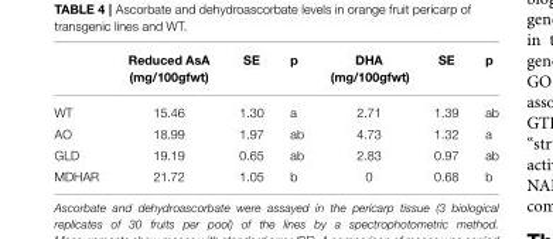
<table><thead><tr><td></td><td>Reduced AsA (mg/100gfwt)</td><td>SE</td><td>p</td><td>DHA (mg/100gfwt)</td><td>SE</td><td>p</td></tr></thead><tbody><tr><td>WT</td><td>15.46</td><td>1.30</td><td>a</td><td>2.71</td><td>1.39</td><td>ab</td></tr><tr><td>AO</td><td>18.99</td><td>1.97</td><td>ab</td><td>4.73</td><td>1.32</td><td>a</td></tr><tr><td>GLD</td><td>19.19</td><td>0.65</td><td>ab</td><td>2.83</td><td>0.97</td><td>ab</td></tr><tr><td>MDHAR</td><td>21.72</td><td>1.05</td><td>b</td><td>0</td><td>0.68</td><td>b</td></tr></tbody></table>